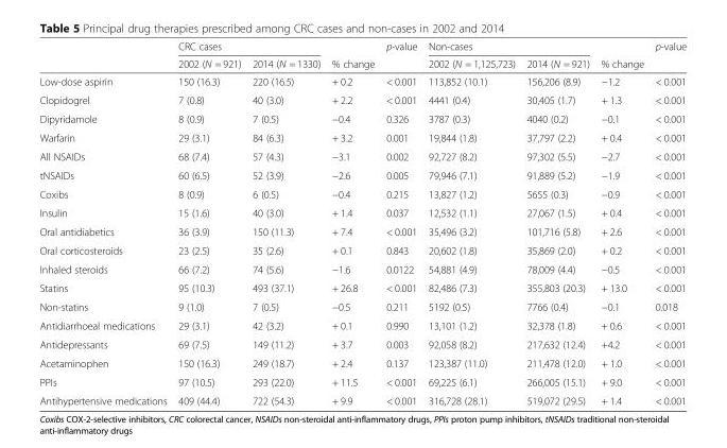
<table><thead><tr><td rowspan="2"></td><td colspan="2">CRC cases</td><td rowspan="2">% change</td><td rowspan="2">p-value</td><td colspan="2">Non-cases</td><td rowspan="2">% change</td><td rowspan="2">p-value</td></tr><tr><td>2002 (N = 921)</td><td>2014 (N = 1330)</td><td>2002 (N = 1,125,723)</td><td>2014 (N = 921)</td></tr></thead><tbody><tr><td>Low-dose aspirin</td><td>150 (16.3)</td><td>220 (16.5)</td><td>+ 0.2</td><td>&lt; 0.001</td><td>113,852 (10.1)</td><td>156,206 (8.9)</td><td>−1.2</td><td>&lt; 0.001</td></tr><tr><td>Clopidogrel</td><td>7 (0.8)</td><td>40 (3.0)</td><td>+ 2.2</td><td>&lt; 0.001</td><td>4441 (0.4)</td><td>30,405 (1.7)</td><td>+ 1.3</td><td>&lt; 0.001</td></tr><tr><td>Dipyridamole</td><td>8 (0.9)</td><td>7 (0.5)</td><td>−0.4</td><td>0.326</td><td>3787 (0.3)</td><td>4040 (0.2)</td><td>−0.1</td><td>&lt; 0.001</td></tr><tr><td>Warfarin</td><td>29 (3.1)</td><td>84 (6.3)</td><td>+ 3.2</td><td>0.001</td><td>19,844 (1.8)</td><td>37,797 (2.2)</td><td>+ 0.4</td><td>&lt; 0.001</td></tr><tr><td>All NSAIDs</td><td>68 (7.4)</td><td>57 (4.3)</td><td>−3.1</td><td>0.002</td><td>92,727 (8.2)</td><td>97,302 (5.5)</td><td>−2.7</td><td>&lt; 0.001</td></tr><tr><td>tNSAIDs</td><td>60 (6.5)</td><td>52 (3.9)</td><td>−2.6</td><td>0.005</td><td>79,946 (7.1)</td><td>91,889 (5.2)</td><td>−1.9</td><td>&lt; 0.001</td></tr><tr><td>Coxibs</td><td>8 (0.9)</td><td>6 (0.5)</td><td>−0.4</td><td>0.215</td><td>13,827 (1.2)</td><td>5655 (0.3)</td><td>−0.9</td><td>&lt; 0.001</td></tr><tr><td>Insulin</td><td>15 (1.6)</td><td>40 (3.0)</td><td>+ 1.4</td><td>0.037</td><td>12,532 (1.1)</td><td>27,067 (1.5)</td><td>+ 0.4</td><td>&lt; 0.001</td></tr><tr><td>Oral antidiabetics</td><td>36 (3.9)</td><td>150 (11.3)</td><td>+ 7.4</td><td>&lt; 0.001</td><td>35,496 (3.2)</td><td>101,716 (5.8)</td><td>+ 2.6</td><td>&lt; 0.001</td></tr><tr><td>Oral corticosteroids</td><td>23 (2.5)</td><td>35 (2.6)</td><td>+ 0.1</td><td>0.843</td><td>20,602 (1.8)</td><td>35,869 (2.0)</td><td>+ 0.2</td><td>&lt; 0.001</td></tr><tr><td>Inhaled steroids</td><td>66 (7.2)</td><td>74 (5.6)</td><td>−1.6</td><td>0.0122</td><td>54,881 (4.9)</td><td>78,009 (4.4)</td><td>−0.5</td><td>&lt; 0.001</td></tr><tr><td>Statins</td><td>95 (10.3)</td><td>493 (37.1)</td><td>+ 26.8</td><td>&lt; 0.001</td><td>82,486 (7.3)</td><td>355,803 (20.3)</td><td>+ 13.0</td><td>&lt; 0.001</td></tr><tr><td>Non-statins</td><td>9 (1.0)</td><td>7 (0.5)</td><td>−0.5</td><td>0.211</td><td>5192 (0.5)</td><td>7766 (0.4)</td><td>−0.1</td><td>0.018</td></tr><tr><td>Antidiarrhoeal medications</td><td>29 (3.1)</td><td>42 (3.2)</td><td>+ 0.1</td><td>0.990</td><td>13,101 (1.2)</td><td>32,378 (1.8)</td><td>+ 0.6</td><td>&lt; 0.001</td></tr><tr><td>Antidepressants</td><td>69 (7.5)</td><td>149 (11.2)</td><td>+ 3.7</td><td>0.003</td><td>92,058 (8.2)</td><td>217,632 (12.4)</td><td>+4.2</td><td>&lt; 0.001</td></tr><tr><td>Acetaminophen</td><td>150 (16.3)</td><td>249 (18.7)</td><td>+ 2.4</td><td>0.137</td><td>123,387 (11.0)</td><td>211,478 (12.0)</td><td>+ 1.0</td><td>&lt; 0.001</td></tr><tr><td>PPIs</td><td>97 (10.5)</td><td>293 (22.0)</td><td>+ 11.5</td><td>&lt; 0.001</td><td>69,225 (6.1)</td><td>266,005 (15.1)</td><td>+ 9.0</td><td>&lt; 0.001</td></tr><tr><td>Antihypertensive medications</td><td>409 (44.4)</td><td>722 (54.3)</td><td>+ 9.9</td><td>&lt; 0.001</td><td>316,728 (28.1)</td><td>519,072 (29.5)</td><td>+ 1.4</td><td>&lt; 0.001</td></tr></tbody></table>